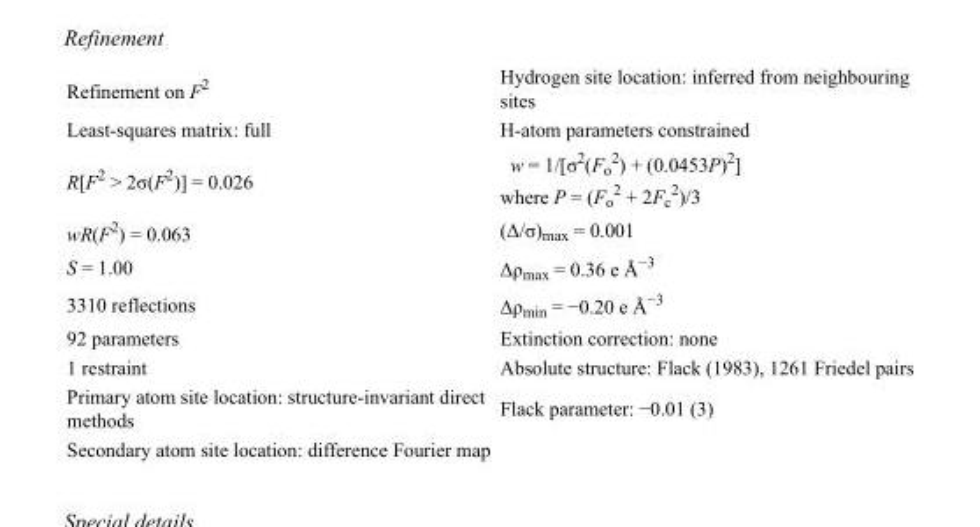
<table><tbody><tr><td>Refinement on F<sup>2</sup></td><td>Hydrogen site location: inferred from neighbouring sites</td></tr><tr><td>Least-squares matrix: full</td><td>H-atom parameters constrained</td></tr><tr><td>R[F<sup>2</sup> &gt; 2σ(F<sup>2</sup>)] = 0.026</td><td>w = 1/[σ<sup>2</sup>(F<sub>o</sub> <sup>2</sup>) + (0.0453P)<sup>2</sup>] where P = (F<sub>o</sub> <sup>2</sup> + 2F<sub>c</sub> <sup>2</sup>)/3</td></tr><tr><td>wR(F<sup>2</sup>) = 0.063</td><td>(Δ/σ)<sub>max</sub> = 0.001</td></tr><tr><td>S = 1.00</td><td>Δρ<sub>max</sub> = 0.36 e Å<sup>−3</sup></td></tr><tr><td>3310 reflections</td><td>Δρ<sub>min</sub> = −0.20 e Å<sup>−3</sup></td></tr><tr><td>92 parameters</td><td>Extinction correction: none</td></tr><tr><td>1 restraint</td><td>Absolute structure: Flack (1983), 1261 Friedel pairs</td></tr><tr><td>Primary atom site location: structure-invariant direct methods</td><td>Flack parameter: −0.01 (3)</td></tr><tr><td>Secondary atom site location: difference Fourier map</td><td></td></tr></tbody></table>